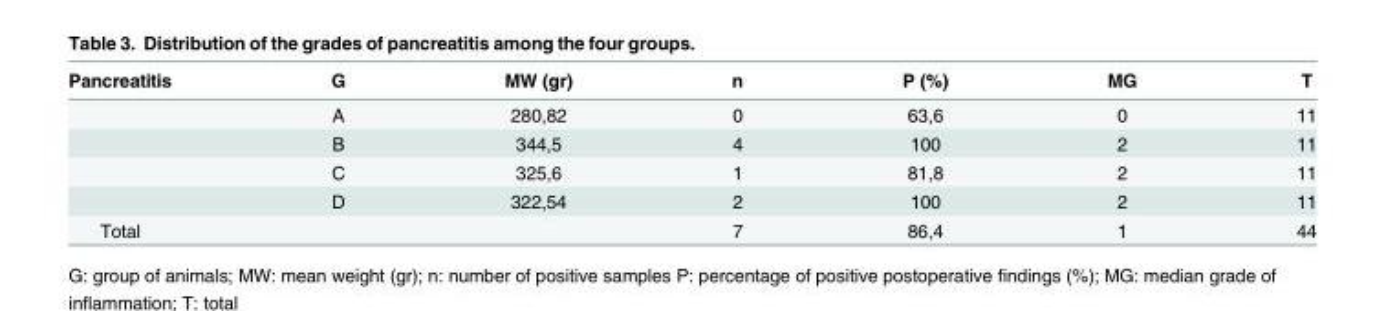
<table><thead><tr><td>Pancreatitis</td><td>G</td><td>MW (gr)</td><td>n</td><td>P (%)</td><td>MG</td><td>T</td></tr></thead><tbody><tr><td></td><td>A</td><td>280,82</td><td>0</td><td>63,6</td><td>0</td><td>11</td></tr><tr><td></td><td>B</td><td>344,5</td><td>4</td><td>100</td><td>2</td><td>11</td></tr><tr><td></td><td>C</td><td>325,6</td><td>1</td><td>81,8</td><td>2</td><td>11</td></tr><tr><td></td><td>D</td><td>322,54</td><td>2</td><td>100</td><td>2</td><td>11</td></tr><tr><td>Total</td><td></td><td></td><td>7</td><td>86,4</td><td>1</td><td>44</td></tr></tbody></table>